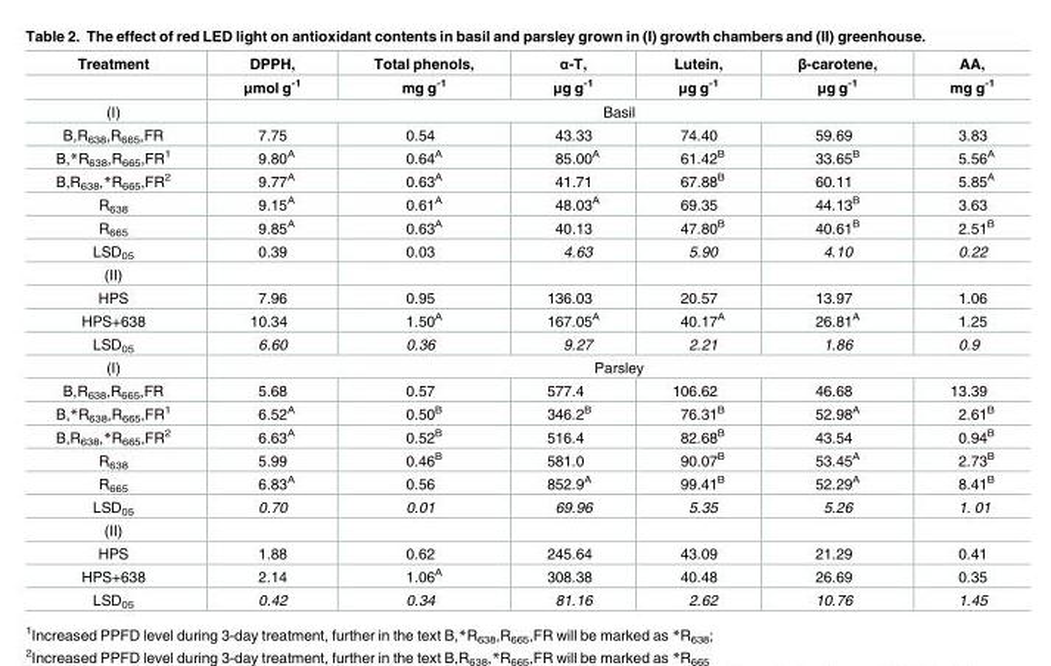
<table><thead><tr><td rowspan="2">Treatment</td><td rowspan="2">DPPH, μmol g<sup>-1</sup></td><td rowspan="2">Total phenols, mg g<sup>-1</sup></td><td rowspan="2">α-T, μg g<sup>-1</sup></td><td rowspan="2">Lutein, μg g<sup>-1</sup></td><td rowspan="2">β-carotene, μg g<sup>-1</sup></td><td rowspan="2">AA, mg g<sup>-1</sup></td></tr><tr></tr></thead><tbody><tr><td>(I)</td><td colspan="6">Basil</td></tr><tr><td>B,R<sub>638</sub>,R<sub>665</sub>,FR</td><td>7.75</td><td>0.54</td><td>43.33</td><td>74.40</td><td>59.69</td><td>3.83</td></tr><tr><td>B,*R<sub>638</sub>,R<sub>665</sub>,FR<sup>1</sup></td><td>9.80<sup>A</sup></td><td>0.64<sup>A</sup></td><td>85.00<sup>A</sup></td><td>61.42<sup>B</sup></td><td>33.65<sup>B</sup></td><td>5.56<sup>A</sup></td></tr><tr><td>B,R<sub>638</sub>,*R<sub>665</sub>,FR<sup>2</sup></td><td>9.77<sup>A</sup></td><td>0.63<sup>A</sup></td><td>41.71</td><td>67.88<sup>B</sup></td><td>60.11</td><td>5.85<sup>A</sup></td></tr><tr><td>R<sub>638</sub></td><td>9.15<sup>A</sup></td><td>0.61<sup>A</sup></td><td>48.03<sup>A</sup></td><td>69.35</td><td>44.13<sup>B</sup></td><td>3.63</td></tr><tr><td>R<sub>665</sub></td><td>9.85<sup>A</sup></td><td>0.63<sup>A</sup></td><td>40.13</td><td>47.80<sup>B</sup></td><td>40.61<sup>B</sup></td><td>2.51<sup>B</sup></td></tr><tr><td>LSD<sub>05</sub></td><td>0.39</td><td>0.03</td><td>4.63</td><td>5.90</td><td>4.10</td><td>0.22</td></tr><tr><td colspan="7">(II)</td></tr><tr><td>HPS</td><td>7.96</td><td>0.95</td><td>136.03</td><td>20.57</td><td>13.97</td><td>1.06</td></tr><tr><td>HPS+638</td><td>10.34</td><td>1.50<sup>A</sup></td><td>167.05<sup>A</sup></td><td>40.17<sup>A</sup></td><td>26.81<sup>A</sup></td><td>1.25</td></tr><tr><td>LSD<sub>05</sub></td><td>6.60</td><td>0.36</td><td>9.27</td><td>2.21</td><td>1.86</td><td>0.9</td></tr><tr><td>(I)</td><td colspan="6">Parsley</td></tr><tr><td>B,R<sub>638</sub>,R<sub>665</sub>,FR</td><td>5.68</td><td>0.57</td><td>577.4</td><td>106.62</td><td>46.68</td><td>13.39</td></tr><tr><td>B,*R<sub>638</sub>,R<sub>665</sub>,FR<sup>1</sup></td><td>6.52<sup>A</sup></td><td>0.50<sup>B</sup></td><td>346.2<sup>B</sup></td><td>76.31<sup>B</sup></td><td>52.98<sup>A</sup></td><td>2.61<sup>B</sup></td></tr><tr><td>B,R<sub>638</sub>,*R<sub>665</sub>,FR<sup>2</sup></td><td>6.63<sup>A</sup></td><td>0.52<sup>B</sup></td><td>516.4</td><td>82.68<sup>B</sup></td><td>43.54</td><td>0.94<sup>B</sup></td></tr><tr><td>R<sub>638</sub></td><td>5.99</td><td>0.46<sup>B</sup></td><td>581.0</td><td>90.07<sup>B</sup></td><td>53.45<sup>A</sup></td><td>2.73<sup>B</sup></td></tr><tr><td>R<sub>665</sub></td><td>6.83<sup>A</sup></td><td>0.56</td><td>852.9<sup>A</sup></td><td>99.41<sup>B</sup></td><td>52.29<sup>A</sup></td><td>8.41<sup>B</sup></td></tr><tr><td>LSD<sub>05</sub></td><td>0.70</td><td>0.01</td><td>69.96</td><td>5.35</td><td>5.26</td><td>1. 01</td></tr><tr><td colspan="7">(II)</td></tr><tr><td>HPS</td><td>1.88</td><td>0.62</td><td>245.64</td><td>43.09</td><td>21.29</td><td>0.41</td></tr><tr><td>HPS+638</td><td>2.14</td><td>1.06<sup>A</sup></td><td>308.38</td><td>40.48</td><td>26.69</td><td>0.35</td></tr><tr><td>LSD<sub>05</sub></td><td>0.42</td><td>0.34</td><td>81.16</td><td>2.62</td><td>10.76</td><td>1.45</td></tr></tbody></table>